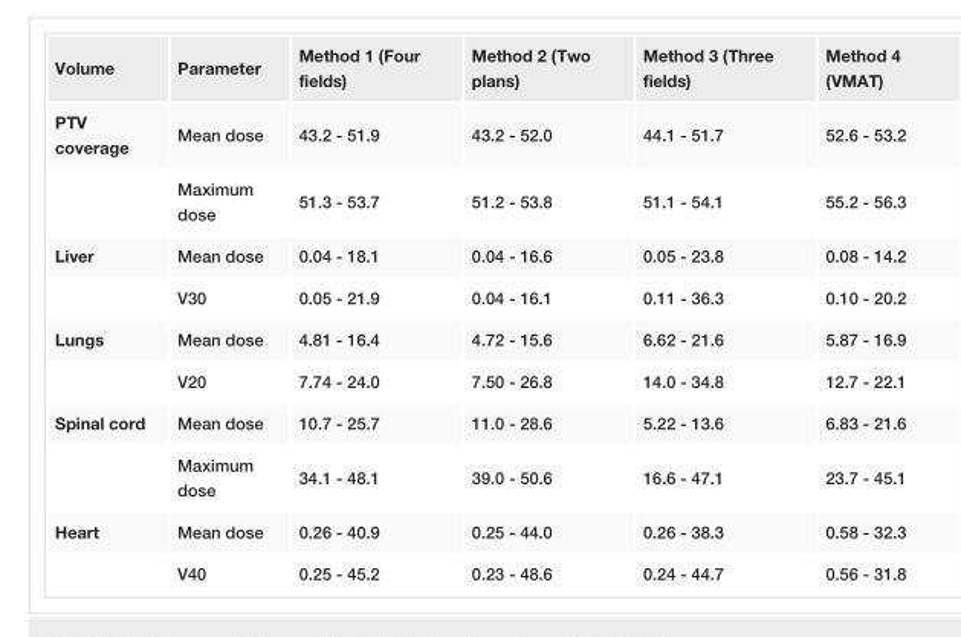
<table><tbody><tr><td>Volume</td><td>Parameter</td><td>Method 1 (Four fields)</td><td>Method 2 (Two plans)</td><td>Method 3 (Three fields)</td><td>Method 4 (VMAT)</td></tr><tr><td rowspan="2">PTV coverage</td><td>Mean dose</td><td>43.2 - 51.9</td><td>43.2 - 52.0</td><td>44.1 - 51.7</td><td>52.6 - 53.2</td></tr><tr><td>Maximum dose</td><td>51.3 - 53.7</td><td>51.2 - 53.8</td><td>51.1 - 54.1</td><td>55.2 - 56.3</td></tr><tr><td rowspan="2">Liver</td><td>Mean dose</td><td>0.04 - 18.1</td><td>0.04 - 16.6</td><td>0.05 - 23.8</td><td>0.08 - 14.2</td></tr><tr><td>V30</td><td>0.05 - 21.9</td><td>0.04 - 16.1</td><td>0.11 - 36.3</td><td>0.10 - 20.2</td></tr><tr><td rowspan="2">Lungs</td><td>Mean dose</td><td>4.81 - 16.4</td><td>4.72 - 15.6</td><td>6.62 - 21.6</td><td>5.87 - 16.9</td></tr><tr><td>V20</td><td>7.74 - 24.0</td><td>7.50 - 26.8</td><td>14.0 - 34.8</td><td>12.7 - 22.1</td></tr><tr><td rowspan="2">Spinal cord</td><td>Mean dose</td><td>10.7 - 25.7</td><td>11.0 - 28.6</td><td>5.22 - 13.6</td><td>6.83 - 21.6</td></tr><tr><td>Maximum dose</td><td>34.1 - 48.1</td><td>39.0 - 50.6</td><td>16.6 - 47.1</td><td>23.7 - 45.1</td></tr><tr><td rowspan="2">Heart</td><td>Mean dose</td><td>0.26 - 40.9</td><td>0.25 - 44.0</td><td>0.26 - 38.3</td><td>0.58 - 32.3</td></tr><tr><td>V40</td><td>0.25 - 45.2</td><td>0.23 - 48.6</td><td>0.24 - 44.7</td><td>0.56 - 31.8</td></tr></tbody></table>